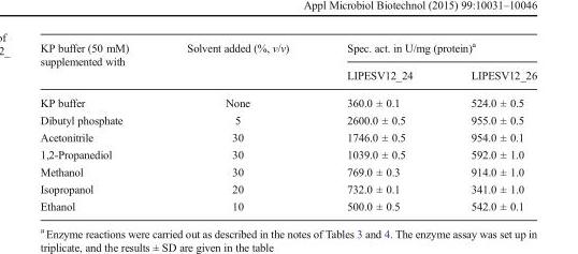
<table><thead><tr><td rowspan="2">KP buffer (50 mM) supplemented with</td><td rowspan="2">Solvent added (%, v/v)</td><td colspan="2">Spec. act. in U/mg (protein)<sup>a</sup></td></tr><tr><td>LIPESV12_24</td><td>LIPESV12_26</td></tr></thead><tbody><tr><td>KP buffer</td><td>None</td><td>360.0 ± 0.1</td><td>524.0 ± 0.5</td></tr><tr><td>Dibutyl phosphate</td><td>5</td><td>2600.0 ± 0.5</td><td>955.0 ± 0.5</td></tr><tr><td>Acetonitrile</td><td>30</td><td>1746.0 ± 0.5</td><td>954.0 ± 0.1</td></tr><tr><td>1,2-Propanediol</td><td>30</td><td>1039.0 ± 0.5</td><td>592.0 ± 1.0</td></tr><tr><td>Methanol</td><td>30</td><td>769.0 ± 0.3</td><td>914.0 ± 1.0</td></tr><tr><td>Isopropanol</td><td>20</td><td>732.0 ± 0.1</td><td>341.0 ± 1.0</td></tr><tr><td>Ethanol</td><td>10</td><td>500.0 ± 0.5</td><td>542.0 ± 0.1</td></tr></tbody></table>